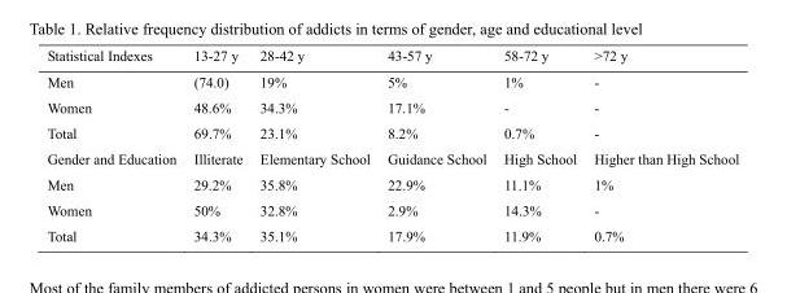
<table><thead><tr><td>Statistical Indexes</td><td>13-27 y</td><td>28-42 y</td><td>43-57 y</td><td>58-72 y</td><td>&gt;72 y</td></tr></thead><tbody><tr><td>Men</td><td>(74.0)</td><td>19%</td><td>5%</td><td>1%</td><td>-</td></tr><tr><td>Women</td><td>48.6%</td><td>34.3%</td><td>17.1%</td><td>-</td><td>-</td></tr><tr><td>Total</td><td>69.7%</td><td>23.1%</td><td>8.2%</td><td>0.7%</td><td>-</td></tr><tr><td>Gender and Education</td><td>Illiterate</td><td>Elementary School</td><td>Guidance School</td><td>High School</td><td>Higher than High School</td></tr><tr><td>Men</td><td>29.2%</td><td>35.8%</td><td>22.9%</td><td>11.1%</td><td>1%</td></tr><tr><td>Women</td><td>50%</td><td>32.8%</td><td>2.9%</td><td>14.3%</td><td>-</td></tr><tr><td>Total</td><td>34.3%</td><td>35.1%</td><td>17.9%</td><td>11.9%</td><td>0.7%</td></tr></tbody></table>